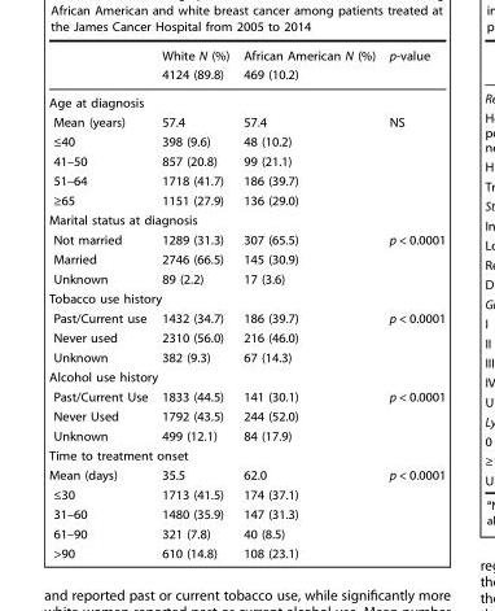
<table><thead><tr><td rowspan="2"></td><td rowspan="2">White N (%) 4124 (89.8)</td><td rowspan="2">African American N (%) 469 (10.2)</td><td rowspan="2">p-value</td></tr><tr></tr></thead><tbody><tr><td colspan="4">Age at diagnosis</td></tr><tr><td>Mean (years)</td><td>57.4</td><td>57.4</td><td rowspan="5">NS</td></tr><tr><td>≤40</td><td>398 (9.6)</td><td>48 (10.2)</td></tr><tr><td>41–50</td><td>857 (20.8)</td><td>99 (21.1)</td></tr><tr><td>51–64</td><td>1718 (41.7)</td><td>186 (39.7)</td></tr><tr><td>≥65</td><td>1151 (27.9)</td><td>136 (29.0)</td></tr><tr><td colspan="4">Marital status at diagnosis</td></tr><tr><td>Not married</td><td>1289 (31.3)</td><td>307 (65.5)</td><td rowspan="3">p &lt; 0.0001</td></tr><tr><td>Married</td><td>2746 (66.5)</td><td>145 (30.9)</td></tr><tr><td>Unknown</td><td>89 (2.2)</td><td>17 (3.6)</td></tr><tr><td colspan="4">Tobacco use history</td></tr><tr><td>Past/Current use</td><td>1432 (34.7)</td><td>186 (39.7)</td><td rowspan="3">p &lt; 0.0001</td></tr><tr><td>Never used</td><td>2310 (56.0)</td><td>216 (46.0)</td></tr><tr><td>Unknown</td><td>382 (9.3)</td><td>67 (14.3)</td></tr><tr><td colspan="4">Alcohol use history</td></tr><tr><td>Past/Current Use</td><td>1833 (44.5)</td><td>141 (30.1)</td><td rowspan="3">p &lt; 0.0001</td></tr><tr><td>Never Used</td><td>1792 (43.5)</td><td>244 (52.0)</td></tr><tr><td>Unknown</td><td>499 (12.1)</td><td>84 (17.9)</td></tr><tr><td colspan="4">Time to treatment onset</td></tr><tr><td>Mean (days)</td><td>35.5</td><td>62.0</td><td rowspan="5">p &lt; 0.0001</td></tr><tr><td>≤30</td><td>1713 (41.5)</td><td>174 (37.1)</td></tr><tr><td>31–60</td><td>1480 (35.9)</td><td>147 (31.3)</td></tr><tr><td>61–90</td><td>321 (7.8)</td><td>40 (8.5)</td></tr><tr><td>&gt;90</td><td>610 (14.8)</td><td>108 (23.1)</td></tr></tbody></table>